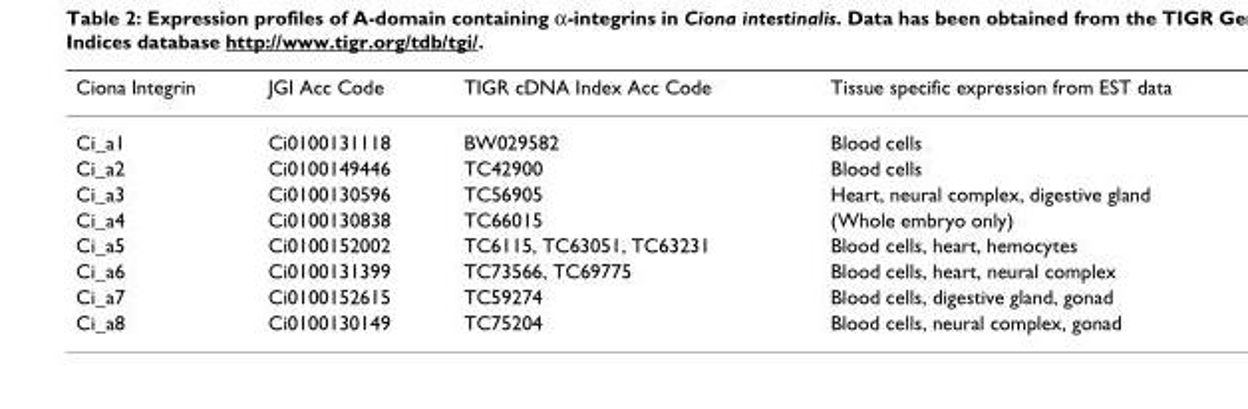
<table><thead><tr><td>Ciona Integrin</td><td>JGI Acc Code</td><td>TIGR cDNA Index Acc Code</td><td>Tissue specific expression from EST data</td></tr></thead><tbody><tr><td>Ci_a1</td><td>Ci0100131118</td><td>BW029582</td><td>Blood cells</td></tr><tr><td>Ci_a2</td><td>Ci0100149446</td><td>TC42900</td><td>Blood cells</td></tr><tr><td>Ci_a3</td><td>Ci0100130596</td><td>TC56905</td><td>Heart, neural complex, digestive gland</td></tr><tr><td>Ci_a4</td><td>Ci0100130838</td><td>TC66015</td><td>(Whole embryo only)</td></tr><tr><td>Ci_a5</td><td>Ci0100152002</td><td>TC6115, TC63051, TC63231</td><td>Blood cells, heart, hemocytes</td></tr><tr><td>Ci_a6</td><td>Ci0100131399</td><td>TC73566, TC69775</td><td>Blood cells, heart, neural complex</td></tr><tr><td>Ci_a7</td><td>Ci0100152615</td><td>TC59274</td><td>Blood cells, digestive gland, gonad</td></tr><tr><td>Ci_a8</td><td>Ci0100130149</td><td>TC75204</td><td>Blood cells, neural complex, gonad</td></tr></tbody></table>